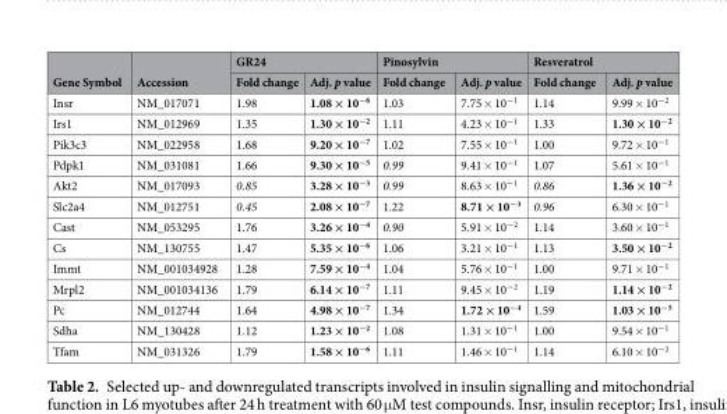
<table><thead><tr><td rowspan="2">Gene Symbol</td><td rowspan="2">Accession</td><td colspan="2">GR24</td><td colspan="2">Pinosylvin</td><td colspan="2">Resveratrol</td></tr><tr><td>Fold change</td><td>Adj. p value</td><td>Fold change</td><td>Adj. p value</td><td>Fold change</td><td>Adj. p value</td></tr></thead><tbody><tr><td>Insr</td><td>NM_017071</td><td>1.98</td><td>1.08 × 10<sup>−6</sup></td><td>1.03</td><td>7.75 × 10<sup>−1</sup></td><td>1.14</td><td>9.99 × 10<sup>−2</sup></td></tr><tr><td>Irs1</td><td>NM_012969</td><td>1.35</td><td>1.30 × 10<sup>−2</sup></td><td>1.11</td><td>4.23 × 10<sup>−1</sup></td><td>1.33</td><td>1.30 × 10<sup>−2</sup></td></tr><tr><td>Pik3c3</td><td>NM_022958</td><td>1.68</td><td>9.20 × 10<sup>−7</sup></td><td>1.02</td><td>7.55 × 10<sup>−1</sup></td><td>1.00</td><td>9.72 × 10<sup>−1</sup></td></tr><tr><td>Pdpk1</td><td>NM_031081</td><td>1.66</td><td>9.30 × 10<sup>−5</sup></td><td>0.99</td><td>9.41 × 10<sup>−1</sup></td><td>1.07</td><td>5.61 × 10<sup>−1</sup></td></tr><tr><td>Akt2</td><td>NM_017093</td><td>0.85</td><td>3.28 × 10<sup>−3</sup></td><td>0.99</td><td>8.63 × 10<sup>−1</sup></td><td>0.86</td><td>1.36 × 10<sup>−2</sup></td></tr><tr><td>Slc2a4</td><td>NM_012751</td><td>0.45</td><td>2.08 × 10<sup>−7</sup></td><td>1.22</td><td>8.71 × 10<sup>−3</sup></td><td>0.96</td><td>6.30 × 10<sup>−1</sup></td></tr><tr><td>Cast</td><td>NM_053295</td><td>1.76</td><td>3.26 × 10<sup>−4</sup></td><td>0.90</td><td>5.91 × 10<sup>−2</sup></td><td>1.14</td><td>3.60 × 10<sup>−1</sup></td></tr><tr><td>Cs</td><td>NM_130755</td><td>1.47</td><td>5.35 × 10<sup>−6</sup></td><td>1.06</td><td>3.21 × 10<sup>−1</sup></td><td>1.13</td><td>3.50 × 10<sup>−2</sup></td></tr><tr><td>Immt</td><td>NM_001034928</td><td>1.28</td><td>7.59 × 10<sup>−4</sup></td><td>1.04</td><td>5.76 × 10<sup>−1</sup></td><td>1.00</td><td>9.71 × 10<sup>−1</sup></td></tr><tr><td>Mrpl2</td><td>NM_001034136</td><td>1.79</td><td>6.14 × 10<sup>−7</sup></td><td>1.11</td><td>9.45 × 10<sup>−2</sup></td><td>1.19</td><td>1.14 × 10<sup>−2</sup></td></tr><tr><td>Pc</td><td>NM_012744</td><td>1.64</td><td>4.98 × 10<sup>−7</sup></td><td>1.34</td><td>1.72 × 10<sup>−4</sup></td><td>1.59</td><td>1.03 × 10<sup>−5</sup></td></tr><tr><td>Sdha</td><td>NM_130428</td><td>1.12</td><td>1.23 × 10<sup>−2</sup></td><td>1.08</td><td>1.31 × 10<sup>−1</sup></td><td>1.00</td><td>9.54 × 10<sup>−1</sup></td></tr><tr><td>Tfam</td><td>NM_031326</td><td>1.79</td><td>1.58 × 10<sup>−6</sup></td><td>1.11</td><td>1.46 × 10<sup>−1</sup></td><td>1.14</td><td>6.10 × 10<sup>−2</sup></td></tr></tbody></table>